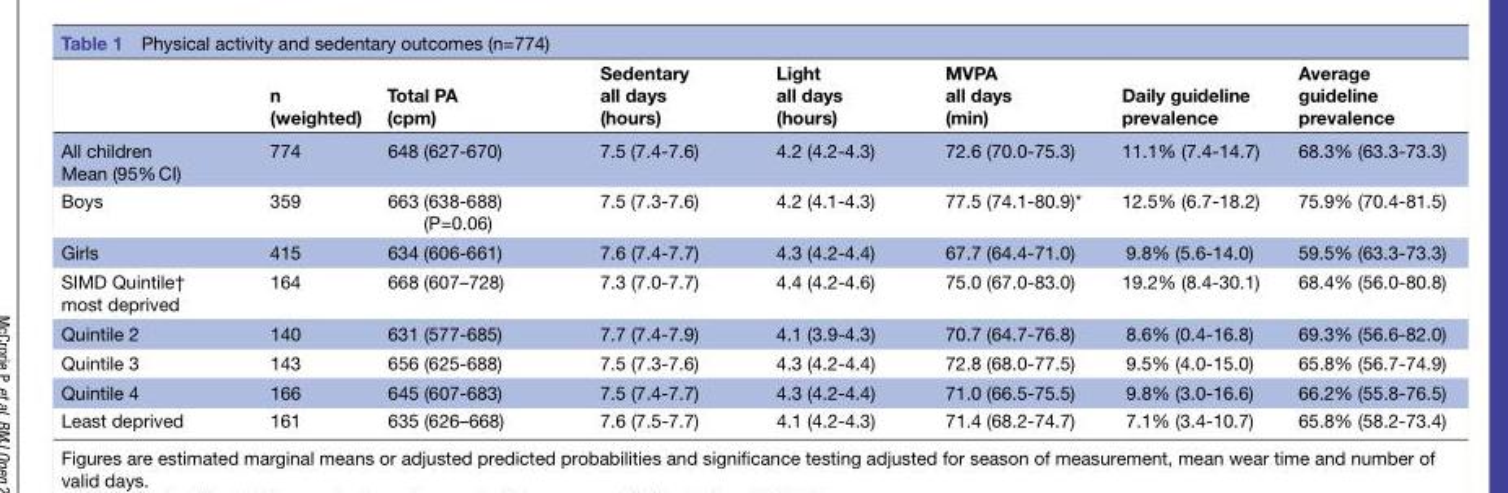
<table><thead><tr><td></td><td>n (weighted)</td><td>Total PA (cpm)</td><td>Sedentary all days (hours)</td><td>Light all days (hours)</td><td>MVPA all days (min)</td><td>Daily guideline prevalence</td><td>Average guideline prevalence</td></tr></thead><tbody><tr><td>All children Mean (95% CI)</td><td>774</td><td>648 (627-670)</td><td>7.5 (7.4-7.6)</td><td>4.2 (4.2-4.3)</td><td>72.6 (70.0-75.3)</td><td>11.1% (7.4-14.7)</td><td>68.3% (63.3-73.3)</td></tr><tr><td>Boys</td><td>359</td><td>663 (638-688) (P=0.06)</td><td>7.5 (7.3-7.6)</td><td>4.2 (4.1-4.3)</td><td>77.5 (74.1-80.9)*</td><td>12.5% (6.7-18.2)</td><td>75.9% (70.4-81.5)</td></tr><tr><td>Girls</td><td>415</td><td>634 (606-661)</td><td>7.6 (7.4-7.7)</td><td>4.3 (4.2-4.4)</td><td>67.7 (64.4-71.0)</td><td>9.8% (5.6-14.0)</td><td>59.5% (63.3-73.3)</td></tr><tr><td>SIMD Quintile† most deprived</td><td>164</td><td>668 (607–728)</td><td>7.3 (7.0-7.7)</td><td>4.4 (4.2-4.6)</td><td>75.0 (67.0-83.0)</td><td>19.2% (8.4-30.1)</td><td>68.4% (56.0-80.8)</td></tr><tr><td>Quintile 2</td><td>140</td><td>631 (577-685)</td><td>7.7 (7.4-7.9)</td><td>4.1 (3.9-4.3)</td><td>70.7 (64.7-76.8)</td><td>8.6% (0.4-16.8)</td><td>69.3% (56.6-82.0)</td></tr><tr><td>Quintile 3</td><td>143</td><td>656 (625-688)</td><td>7.5 (7.3-7.6)</td><td>4.3 (4.2-4.4)</td><td>72.8 (68.0-77.5)</td><td>9.5% (4.0-15.0)</td><td>65.8% (56.7-74.9)</td></tr><tr><td>Quintile 4</td><td>166</td><td>645 (607-683)</td><td>7.5 (7.4-7.7)</td><td>4.3 (4.2-4.4)</td><td>71.0 (66.5-75.5)</td><td>9.8% (3.0-16.6)</td><td>66.2% (55.8-76.5)</td></tr><tr><td>Least deprived</td><td>161</td><td>635 (626–668)</td><td>7.6 (7.5-7.7)</td><td>4.1 (4.2-4.3)</td><td>71.4 (68.2-74.7)</td><td>7.1% (3.4-10.7)</td><td>65.8% (58.2-73.4)</td></tr></tbody></table>